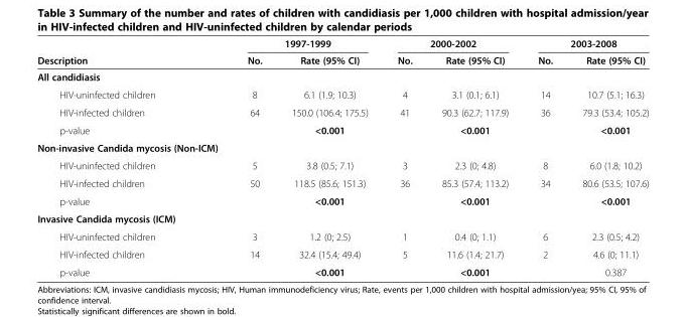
<table><thead><tr><td rowspan="2">Description</td><td colspan="2">1997-1999</td><td colspan="2">2000-2002</td><td colspan="2">2003-2008</td></tr><tr><td>No.</td><td>Rate (95% CI)</td><td>No.</td><td>Rate (95% CI)</td><td>No.</td><td>Rate (95% CI)</td></tr></thead><tbody><tr><td colspan="7">All candidiasis</td></tr><tr><td>HIV-uninfected children</td><td>8</td><td>6.1 (1.9; 10.3)</td><td>4</td><td>3.1 (0.1; 6.1)</td><td>14</td><td>10.7 (5.1; 16.3)</td></tr><tr><td>HIV-infected children</td><td>64</td><td>150.0 (106.4; 175.5)</td><td>41</td><td>90.3 (62.7; 117.9)</td><td>36</td><td>79.3 (53.4; 105.2)</td></tr><tr><td>p-value</td><td></td><td>&lt;0.001</td><td></td><td>&lt;0.001</td><td></td><td>&lt;0.001</td></tr><tr><td colspan="7">Non-invasive Candida mycosis (Non-ICM)</td></tr><tr><td>HIV-uninfected children</td><td>5</td><td>3.8 (0.5; 7.1)</td><td>3</td><td>2.3 (0; 4.8)</td><td>8</td><td>6.0 (1.8; 10.2)</td></tr><tr><td>HIV-infected children</td><td>50</td><td>118.5 (85.6; 151.3)</td><td>36</td><td>85.3 (57.4; 113.2)</td><td>34</td><td>80.6 (53.5; 107.6)</td></tr><tr><td>p-value</td><td></td><td>&lt;0.001</td><td></td><td>&lt;0.001</td><td></td><td>&lt;0.001</td></tr><tr><td colspan="7">Invasive Candida mycosis (ICM)</td></tr><tr><td>HIV-uninfected children</td><td>3</td><td>1.2 (0; 2.5)</td><td>1</td><td>0.4 (0; 1.1)</td><td>6</td><td>2.3 (0.5; 4.2)</td></tr><tr><td>HIV-infected children</td><td>14</td><td>32.4 (15.4; 49.4)</td><td>5</td><td>11.6 (1.4; 21.7)</td><td>2</td><td>4.6 (0; 11.1)</td></tr><tr><td>p-value</td><td></td><td>&lt;0.001</td><td></td><td>&lt;0.001</td><td></td><td>0.387</td></tr></tbody></table>